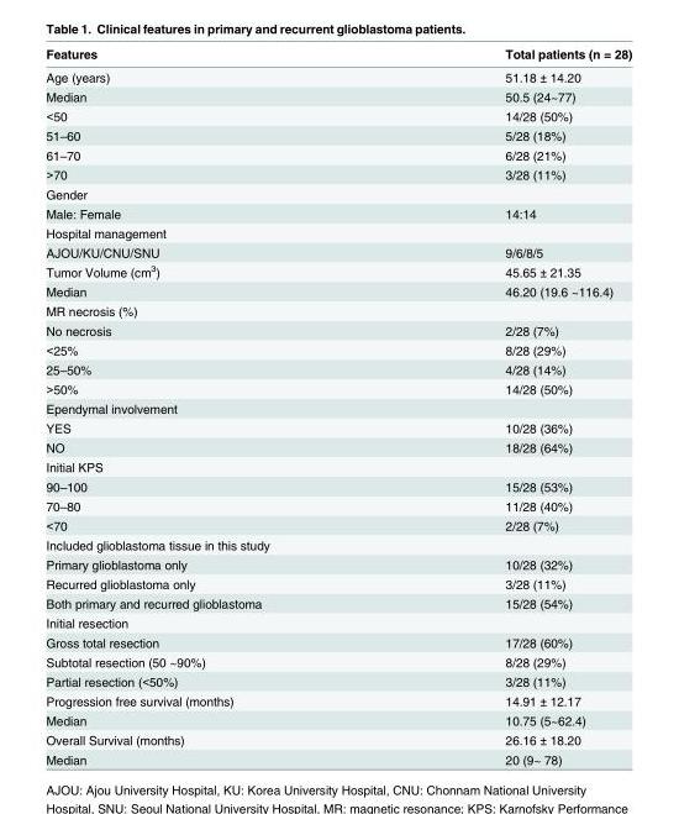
<table><thead><tr><td>Features</td><td>Total patients (n = 28)</td></tr></thead><tbody><tr><td>Age (years)</td><td>51.18 ± 14.20</td></tr><tr><td>Median</td><td>50.5 (24~77)</td></tr><tr><td>&lt;50</td><td>14/28 (50%)</td></tr><tr><td>51–60</td><td>5/28 (18%)</td></tr><tr><td>61–70</td><td>6/28 (21%)</td></tr><tr><td>&gt;70</td><td>3/28 (11%)</td></tr><tr><td colspan="2">Gender</td></tr><tr><td>Male: Female</td><td>14:14</td></tr><tr><td colspan="2">Hospital management</td></tr><tr><td>AJOU/KU/CNU/SNU</td><td>9/6/8/5</td></tr><tr><td>Tumor Volume (cm<sup>3</sup>)</td><td>45.65 ± 21.35</td></tr><tr><td>Median</td><td>46.20 (19.6 ~116.4)</td></tr><tr><td colspan="2">MR necrosis (%)</td></tr><tr><td>No necrosis</td><td>2/28 (7%)</td></tr><tr><td>&lt;25%</td><td>8/28 (29%)</td></tr><tr><td>25–50%</td><td>4/28 (14%)</td></tr><tr><td>&gt;50%</td><td>14/28 (50%)</td></tr><tr><td colspan="2">Ependymal involvement</td></tr><tr><td>YES</td><td>10/28 (36%)</td></tr><tr><td>NO</td><td>18/28 (64%)</td></tr><tr><td colspan="2">Initial KPS</td></tr><tr><td>90–100</td><td>15/28 (53%)</td></tr><tr><td>70–80</td><td>11/28 (40%)</td></tr><tr><td>&lt;70</td><td>2/28 (7%)</td></tr><tr><td colspan="2">Included glioblastoma tissue in this study</td></tr><tr><td>Primary glioblastoma only</td><td>10/28 (32%)</td></tr><tr><td>Recurred glioblastoma only</td><td>3/28 (11%)</td></tr><tr><td>Both primary and recurred glioblastoma</td><td>15/28 (54%)</td></tr><tr><td colspan="2">Initial resection</td></tr><tr><td>Gross total resection</td><td>17/28 (60%)</td></tr><tr><td>Subtotal resection (50 ~90%)</td><td>8/28 (29%)</td></tr><tr><td>Partial resection (&lt;50%)</td><td>3/28 (11%)</td></tr><tr><td>Progression free survival (months)</td><td>14.91 ± 12.17</td></tr><tr><td>Median</td><td>10.75 (5~62.4)</td></tr><tr><td>Overall Survival (months)</td><td>26.16 ± 18.20</td></tr><tr><td>Median</td><td>20 (9~ 78)</td></tr></tbody></table>